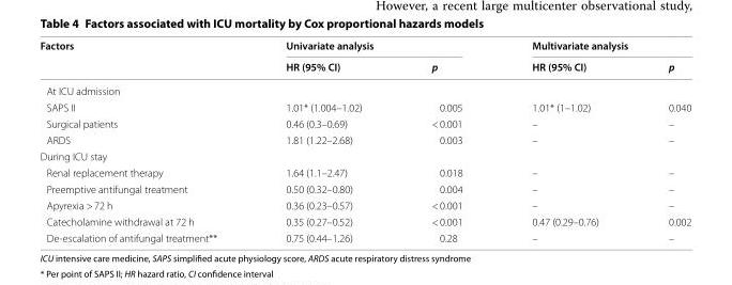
<table><thead><tr><td rowspan="2">Factors</td><td colspan="2">Univariate analysis</td><td colspan="2">Multivariate analysis</td></tr><tr><td>HR (95% CI)</td><td>p</td><td>HR (95% CI)</td><td>p</td></tr></thead><tbody><tr><td colspan="5">At ICU admission</td></tr><tr><td>SAPS II</td><td>1.01* (1.004–1.02)</td><td>0.005</td><td>1.01* (1–1.02)</td><td>0.040</td></tr><tr><td>Surgical patients</td><td>0.46 (0.3–0.69)</td><td>&lt; 0.001</td><td>–</td><td>–</td></tr><tr><td>ARDS</td><td>1.81 (1.22–2.68)</td><td>0.003</td><td>–</td><td>–</td></tr><tr><td colspan="5">During ICU stay</td></tr><tr><td>Renal replacement therapy</td><td>1.64 (1.1–2.47)</td><td>0.018</td><td>–</td><td>–</td></tr><tr><td>Preemptive antifungal treatment</td><td>0.50 (0.32–0.80)</td><td>0.004</td><td>–</td><td>–</td></tr><tr><td>Apyrexia &gt; 72 h</td><td>0.36 (0.23–0.57)</td><td>&lt; 0.001</td><td>–</td><td>–</td></tr><tr><td>Catecholamine withdrawal at 72 h</td><td>0.35 (0.27–0.52)</td><td>&lt; 0.001</td><td>0.47 (0.29–0.76)</td><td>0.002</td></tr><tr><td>De-escalation of antifungal treatment**</td><td>0.75 (0.44–1.26)</td><td>0.28</td><td>–</td><td>–</td></tr></tbody></table>